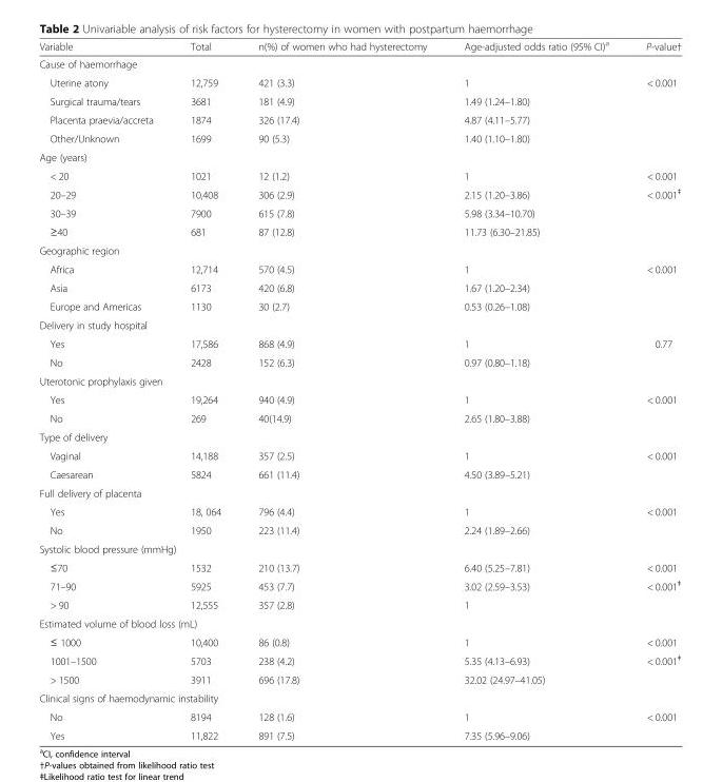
<table><thead><tr><td>Variable</td><td>Total</td><td>n(%) of women who had hysterectomy</td><td>Age-adjusted odds ratio (95% CI)<sup>a</sup></td><td>P-value†</td></tr></thead><tbody><tr><td colspan="5">Cause of haemorrhage</td></tr><tr><td>Uterine atony</td><td>12,759</td><td>421 (3.3)</td><td>1</td><td>&lt; 0.001</td></tr><tr><td>Surgical trauma/tears</td><td>3681</td><td>181 (4.9)</td><td>1.49 (1.24–1.80)</td><td></td></tr><tr><td>Placenta praevia/accreta</td><td>1874</td><td>326 (17.4)</td><td>4.87 (4.11–5.77)</td><td></td></tr><tr><td>Other/Unknown</td><td>1699</td><td>90 (5.3)</td><td>1.40 (1.10–1.80)</td><td></td></tr><tr><td colspan="5">Age (years)</td></tr><tr><td>&lt; 20</td><td>1021</td><td>12 (1.2)</td><td>1</td><td>&lt; 0.001</td></tr><tr><td>20–29</td><td>10,408</td><td>306 (2.9)</td><td>2.15 (1.20–3.86)</td><td>&lt; 0.001<sup>ǂ</sup></td></tr><tr><td>30–39</td><td>7900</td><td>615 (7.8)</td><td>5.98 (3.34–10.70)</td><td></td></tr><tr><td>≥40</td><td>681</td><td>87 (12.8)</td><td>11.73 (6.30–21.85)</td><td></td></tr><tr><td colspan="5">Geographic region</td></tr><tr><td>Africa</td><td>12,714</td><td>570 (4.5)</td><td>1</td><td>&lt; 0.001</td></tr><tr><td>Asia</td><td>6173</td><td>420 (6.8)</td><td>1.67 (1.20–2.34)</td><td></td></tr><tr><td>Europe and Americas</td><td>1130</td><td>30 (2.7)</td><td>0.53 (0.26–1.08)</td><td></td></tr><tr><td colspan="5">Delivery in study hospital</td></tr><tr><td>Yes</td><td>17,586</td><td>868 (4.9)</td><td>1</td><td>0.77</td></tr><tr><td>No</td><td>2428</td><td>152 (6.3)</td><td>0.97 (0.80–1.18)</td><td></td></tr><tr><td colspan="5">Uterotonic prophylaxis given</td></tr><tr><td>Yes</td><td>19,264</td><td>940 (4.9)</td><td>1</td><td>&lt; 0.001</td></tr><tr><td>No</td><td>269</td><td>40(14.9)</td><td>2.65 (1.80–3.88)</td><td></td></tr><tr><td colspan="5">Type of delivery</td></tr><tr><td>Vaginal</td><td>14,188</td><td>357 (2.5)</td><td>1</td><td>&lt; 0.001</td></tr><tr><td>Caesarean</td><td>5824</td><td>661 (11.4)</td><td>4.50 (3.89–5.21)</td><td></td></tr><tr><td colspan="5">Full delivery of placenta</td></tr><tr><td>Yes</td><td>18, 064</td><td>796 (4.4)</td><td>1</td><td>&lt; 0.001</td></tr><tr><td>No</td><td>1950</td><td>223 (11.4)</td><td>2.24 (1.89–2.66)</td><td></td></tr><tr><td colspan="5">Systolic blood pressure (mmHg)</td></tr><tr><td>≤70</td><td>1532</td><td>210 (13.7)</td><td>6.40 (5.25–7.81)</td><td>&lt; 0.001</td></tr><tr><td>71–90</td><td>5925</td><td>453 (7.7)</td><td>3.02 (2.59–3.53)</td><td>&lt; 0.001<sup>ǂ</sup></td></tr><tr><td>&gt; 90</td><td>12,555</td><td>357 (2.8)</td><td>1</td><td></td></tr><tr><td colspan="5">Estimated volume of blood loss (mL)</td></tr><tr><td>≤ 1000</td><td>10,400</td><td>86 (0.8)</td><td>1</td><td>&lt; 0.001</td></tr><tr><td>1001–1500</td><td>5703</td><td>238 (4.2)</td><td>5.35 (4.13–6.93)</td><td>&lt; 0.001<sup>ǂ</sup></td></tr><tr><td>&gt; 1500</td><td>3911</td><td>696 (17.8)</td><td>32.02 (24.97–41.05)</td><td></td></tr><tr><td colspan="5">Clinical signs of haemodynamic instability</td></tr><tr><td>No</td><td>8194</td><td>128 (1.6)</td><td>1</td><td>&lt; 0.001</td></tr><tr><td>Yes</td><td>11,822</td><td>891 (7.5)</td><td>7.35 (5.96–9.06)</td><td></td></tr></tbody></table>